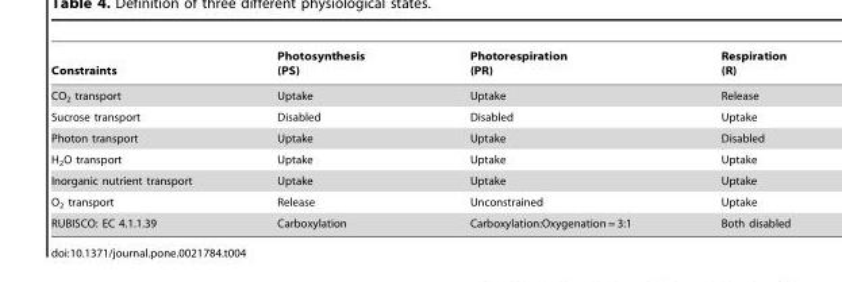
<table><thead><tr><td>Constraints</td><td>Photosynthesis (PS)</td><td>Photorespiration (PR)</td><td>Respiration (R)</td></tr></thead><tbody><tr><td>CO<sub>2</sub> transport</td><td>Uptake</td><td>Uptake</td><td>Release</td></tr><tr><td>Sucrose transport</td><td>Disabled</td><td>Disabled</td><td>Uptake</td></tr><tr><td>Photon transport</td><td>Uptake</td><td>Uptake</td><td>Disabled</td></tr><tr><td>H<sub>2</sub>O transport</td><td>Uptake</td><td>Uptake</td><td>Uptake</td></tr><tr><td>Inorganic nutrient transport</td><td>Uptake</td><td>Uptake</td><td>Uptake</td></tr><tr><td>O<sub>2</sub> transport</td><td>Release</td><td>Unconstrained</td><td>Uptake</td></tr><tr><td>RUBISCO: EC 4.1.1.39</td><td>Carboxylation</td><td>Carboxylation:Oxygenation = 3:1</td><td>Both disabled</td></tr></tbody></table>